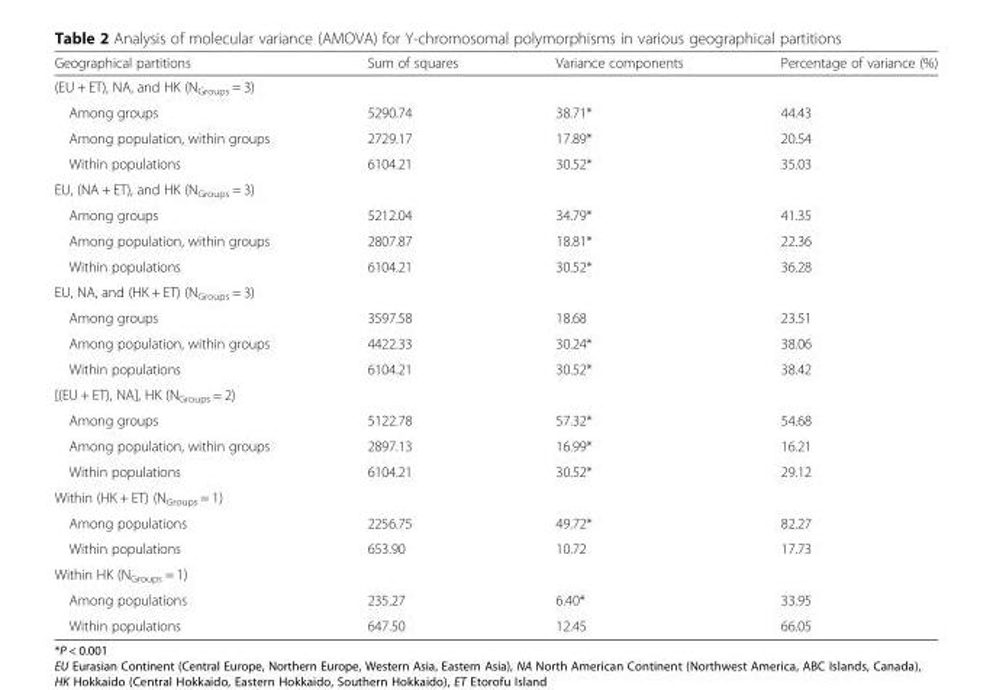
<table><thead><tr><td>Geographical partitions</td><td>Sum of squares</td><td>Variance components</td><td>Percentage of variance (%)</td></tr></thead><tbody><tr><td colspan="4">(EU + ET), NA, and HK (N<sub>Groups</sub> = 3)</td></tr><tr><td>Among groups</td><td>5290.74</td><td>38.71*</td><td>44.43</td></tr><tr><td>Among population, within groups</td><td>2729.17</td><td>17.89*</td><td>20.54</td></tr><tr><td>Within populations</td><td>6104.21</td><td>30.52*</td><td>35.03</td></tr><tr><td colspan="4">EU, (NA + ET), and HK (N<sub>Groups</sub> = 3)</td></tr><tr><td>Among groups</td><td>5212.04</td><td>34.79*</td><td>41.35</td></tr><tr><td>Among population, within groups</td><td>2807.87</td><td>18.81*</td><td>22.36</td></tr><tr><td>Within populations</td><td>6104.21</td><td>30.52*</td><td>36.28</td></tr><tr><td colspan="4">EU, NA, and (HK + ET) (N<sub>Groups</sub> = 3)</td></tr><tr><td>Among groups</td><td>3597.58</td><td>18.68</td><td>23.51</td></tr><tr><td>Among population, within groups</td><td>4422.33</td><td>30.24*</td><td>38.06</td></tr><tr><td>Within populations</td><td>6104.21</td><td>30.52*</td><td>38.42</td></tr><tr><td colspan="4">[(EU + ET), NA], HK (N<sub>Groups</sub> = 2)</td></tr><tr><td>Among groups</td><td>5122.78</td><td>57.32*</td><td>54.68</td></tr><tr><td>Among population, within groups</td><td>2897.13</td><td>16.99*</td><td>16.21</td></tr><tr><td>Within populations</td><td>6104.21</td><td>30.52*</td><td>29.12</td></tr><tr><td colspan="4">Within (HK + ET) (N<sub>Groups</sub> = 1)</td></tr><tr><td>Among populations</td><td>2256.75</td><td>49.72*</td><td>82.27</td></tr><tr><td>Within populations</td><td>653.90</td><td>10.72</td><td>17.73</td></tr><tr><td colspan="4">Within HK (N<sub>Groups</sub> = 1)</td></tr><tr><td>Among populations</td><td>235.27</td><td>6.40*</td><td>33.95</td></tr><tr><td>Within populations</td><td>647.50</td><td>12.45</td><td>66.05</td></tr></tbody></table>